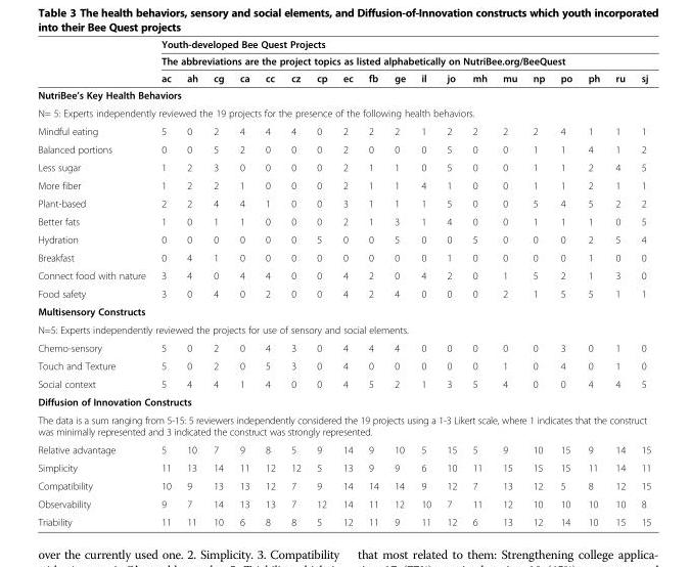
<table><thead><tr><td rowspan="3"></td><td rowspan="2" colspan="19">Youth-developed Bee Quest Projects The abbreviations are the project topics as listed alphabetically on NutriBee.org/BeeQuest</td></tr><tr></tr><tr><td>ac</td><td>ah</td><td>cg</td><td>ca</td><td>cc</td><td>cz</td><td>cp</td><td>ec</td><td>fb</td><td>ge</td><td>il</td><td>jo</td><td>mh</td><td>mu</td><td>np</td><td>po</td><td>ph</td><td>ru</td><td>sj</td></tr></thead><tbody><tr><td colspan="20">NutriBee’s Key Health Behaviors</td></tr><tr><td colspan="20">N= 5: Experts independently reviewed the 19 projects for the presence of the following health behaviors.</td></tr><tr><td>Mindful eating</td><td>5</td><td>0</td><td>2</td><td>4</td><td>4</td><td>4</td><td>0</td><td>2</td><td>2</td><td>2</td><td>1</td><td>2</td><td>2</td><td>2</td><td>2</td><td>4</td><td>1</td><td>1</td><td>1</td></tr><tr><td>Balanced portions</td><td>0</td><td>0</td><td>5</td><td>2</td><td>0</td><td>0</td><td>0</td><td>2</td><td>0</td><td>0</td><td>0</td><td>5</td><td>0</td><td>0</td><td>1</td><td>1</td><td>4</td><td>1</td><td>2</td></tr><tr><td>Less sugar</td><td>1</td><td>2</td><td>3</td><td>0</td><td>0</td><td>0</td><td>0</td><td>2</td><td>1</td><td>1</td><td>0</td><td>5</td><td>0</td><td>0</td><td>1</td><td>1</td><td>2</td><td>4</td><td>5</td></tr><tr><td>More fiber</td><td>1</td><td>2</td><td>2</td><td>1</td><td>0</td><td>0</td><td>0</td><td>2</td><td>1</td><td>1</td><td>4</td><td>1</td><td>0</td><td>0</td><td>1</td><td>1</td><td>2</td><td>1</td><td>1</td></tr><tr><td>Plant-based</td><td>2</td><td>2</td><td>4</td><td>4</td><td>1</td><td>0</td><td>0</td><td>3</td><td>1</td><td>1</td><td>1</td><td>5</td><td>0</td><td>0</td><td>5</td><td>4</td><td>5</td><td>2</td><td>2</td></tr><tr><td>Better fats</td><td>1</td><td>0</td><td>1</td><td>1</td><td>0</td><td>0</td><td>0</td><td>2</td><td>1</td><td>3</td><td>1</td><td>4</td><td>0</td><td>0</td><td>1</td><td>1</td><td>1</td><td>0</td><td>5</td></tr><tr><td>Hydration</td><td>0</td><td>0</td><td>0</td><td>0</td><td>0</td><td>0</td><td>5</td><td>0</td><td>0</td><td>5</td><td>0</td><td>0</td><td>5</td><td>0</td><td>0</td><td>0</td><td>2</td><td>5</td><td>4</td></tr><tr><td>Breakfast</td><td>0</td><td>4</td><td>1</td><td>0</td><td>0</td><td>0</td><td>0</td><td>0</td><td>0</td><td>0</td><td>0</td><td>1</td><td>0</td><td>0</td><td>0</td><td>0</td><td>1</td><td>0</td><td>0</td></tr><tr><td>Connect food with nature</td><td>3</td><td>4</td><td>0</td><td>4</td><td>4</td><td>0</td><td>0</td><td>4</td><td>2</td><td>0</td><td>4</td><td>2</td><td>0</td><td>1</td><td>5</td><td>2</td><td>1</td><td>3</td><td>0</td></tr><tr><td>Food safety</td><td>3</td><td>0</td><td>4</td><td>0</td><td>2</td><td>0</td><td>0</td><td>4</td><td>2</td><td>4</td><td>0</td><td>0</td><td>0</td><td>2</td><td>1</td><td>5</td><td>5</td><td>1</td><td>1</td></tr><tr><td colspan="20">Multisensory Constructs</td></tr><tr><td colspan="20">N=5: Experts independently reviewed the projects for use of sensory and social elements.</td></tr><tr><td>Chemo-sensory</td><td>5</td><td>0</td><td>2</td><td>0</td><td>4</td><td>3</td><td>0</td><td>4</td><td>4</td><td>4</td><td>0</td><td>0</td><td>0</td><td>0</td><td>0</td><td>3</td><td>0</td><td>1</td><td>0</td></tr><tr><td>Touch and Texture</td><td>5</td><td>0</td><td>2</td><td>0</td><td>5</td><td>3</td><td>0</td><td>4</td><td>0</td><td>0</td><td>0</td><td>0</td><td>0</td><td>1</td><td>0</td><td>4</td><td>0</td><td>1</td><td>0</td></tr><tr><td>Social context</td><td>5</td><td>4</td><td>4</td><td>1</td><td>4</td><td>0</td><td>0</td><td>4</td><td>5</td><td>2</td><td>1</td><td>3</td><td>5</td><td>4</td><td>0</td><td>0</td><td>4</td><td>4</td><td>5</td></tr><tr><td colspan="20">Diffusion of Innovation Constructs</td></tr><tr><td colspan="20">The data is a sum ranging from 5-15: 5 reviewers independently considered the 19 projects using a 1-3 Likert scale, where 1 indicates that the construct was minimally represented and 3 indicated the construct was strongly represented.</td></tr><tr><td>Relative advantage</td><td>5</td><td>10</td><td>7</td><td>9</td><td>8</td><td>5</td><td>9</td><td>14</td><td>9</td><td>10</td><td>5</td><td>15</td><td>5</td><td>9</td><td>10</td><td>15</td><td>9</td><td>14</td><td>15</td></tr><tr><td>Simplicity</td><td>11</td><td>13</td><td>14</td><td>11</td><td>12</td><td>12</td><td>5</td><td>13</td><td>9</td><td>9</td><td>6</td><td>10</td><td>11</td><td>15</td><td>15</td><td>15</td><td>11</td><td>14</td><td>11</td></tr><tr><td>Compatibility</td><td>10</td><td>9</td><td>13</td><td>13</td><td>12</td><td>7</td><td>9</td><td>14</td><td>14</td><td>14</td><td>9</td><td>12</td><td>7</td><td>13</td><td>12</td><td>5</td><td>8</td><td>12</td><td>15</td></tr><tr><td>Observability</td><td>9</td><td>7</td><td>14</td><td>13</td><td>13</td><td>7</td><td>12</td><td>14</td><td>11</td><td>12</td><td>10</td><td>7</td><td>11</td><td>12</td><td>10</td><td>10</td><td>10</td><td>10</td><td>8</td></tr><tr><td>Triability</td><td>11</td><td>11</td><td>10</td><td>6</td><td>8</td><td>8</td><td>5</td><td>12</td><td>11</td><td>9</td><td>11</td><td>12</td><td>6</td><td>13</td><td>12</td><td>14</td><td>10</td><td>15</td><td>15</td></tr></tbody></table>